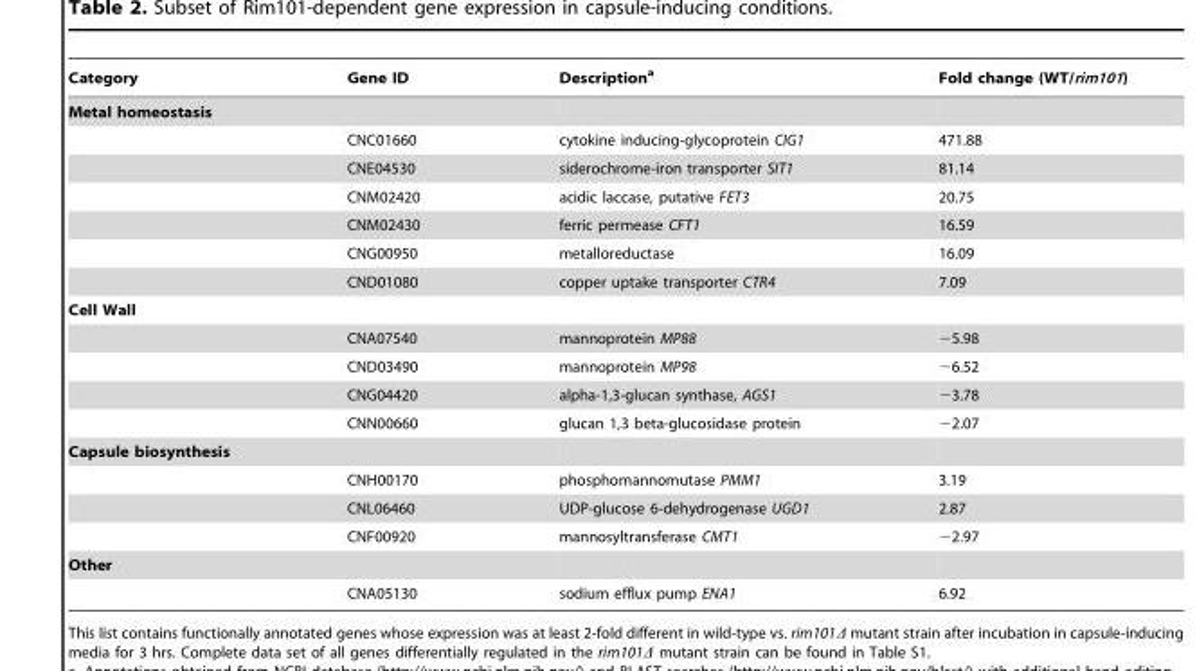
<table><thead><tr><td>Category</td><td>Gene ID</td><td>Description<sup>a</sup></td><td>Fold change (WT/rim101)</td></tr></thead><tbody><tr><td colspan="4">Metal homeostasis</td></tr><tr><td></td><td>CNC01660</td><td>cytokine inducing-glycoprotein CIG1</td><td>471.88</td></tr><tr><td></td><td>CNE04530</td><td>siderochrome-iron transporter SIT1</td><td>81.14</td></tr><tr><td></td><td>CNM02420</td><td>acidic laccase, putative FET3</td><td>20.75</td></tr><tr><td></td><td>CNM02430</td><td>ferric permease CFT1</td><td>16.59</td></tr><tr><td></td><td>CNG00950</td><td>metalloreductase</td><td>16.09</td></tr><tr><td></td><td>CND01080</td><td>copper uptake transporter CTR4</td><td>7.09</td></tr><tr><td colspan="4">Cell Wall</td></tr><tr><td></td><td>CNA07540</td><td>mannoprotein MP88</td><td>−5.98</td></tr><tr><td></td><td>CND03490</td><td>mannoprotein MP98</td><td>−6.52</td></tr><tr><td></td><td>CNG04420</td><td>alpha-1,3-glucan synthase, AGS1</td><td>−3.78</td></tr><tr><td></td><td>CNN00660</td><td>glucan 1,3 beta-glucosidase protein</td><td>−2.07</td></tr><tr><td colspan="4">Capsule biosynthesis</td></tr><tr><td></td><td>CNH00170</td><td>phosphomannomutase PMM1</td><td>3.19</td></tr><tr><td></td><td>CNL06460</td><td>UDP-glucose 6-dehydrogenase UGD1</td><td>2.87</td></tr><tr><td></td><td>CNF00920</td><td>mannosyltransferase CMT1</td><td>−2.97</td></tr><tr><td colspan="4">Other</td></tr><tr><td></td><td>CNA05130</td><td>sodium efflux pump ENA1</td><td>6.92</td></tr></tbody></table>